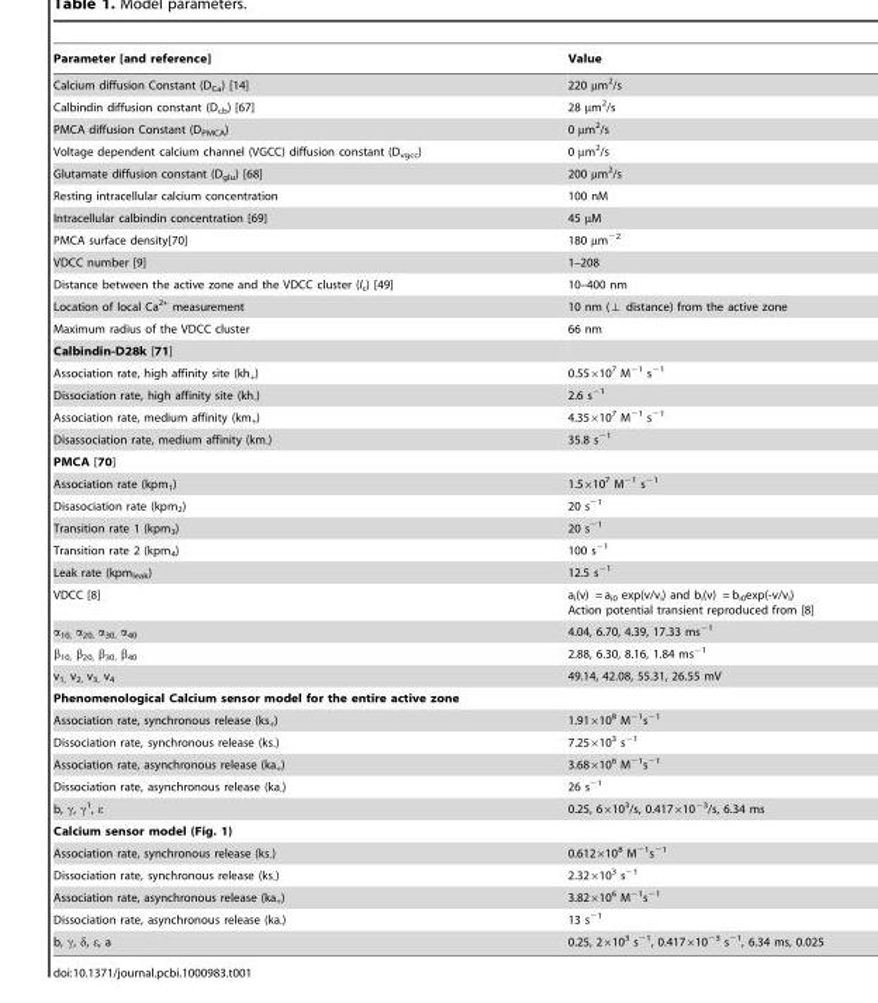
<table><thead><tr><td>Parameter [and reference]</td><td>Value</td></tr></thead><tbody><tr><td>Calcium diffusion Constant (D<sub>Ca</sub>) [14]</td><td>220 µm<sup>2</sup>/s</td></tr><tr><td>Calbindin diffusion constant (D<sub>cb</sub>) [67]</td><td>28 µm<sup>2</sup>/s</td></tr><tr><td>PMCA diffusion Constant (D<sub>PMCA</sub>)</td><td>0 µm<sup>2</sup>/s</td></tr><tr><td>Voltage dependent calcium channel (VGCC) diffusion constant (D<sub>vgcc</sub>)</td><td>0 µm<sup>2</sup>/s</td></tr><tr><td>Glutamate diffusion constant (D<sub>glu</sub>) [68]</td><td>200 µm<sup>2</sup>/s</td></tr><tr><td>Resting intracellular calcium concentration</td><td>100 nM</td></tr><tr><td>Intracellular calbindin concentration [69]</td><td>45 µM</td></tr><tr><td>PMCA surface density[70]</td><td>180 µm<sup>−2</sup></td></tr><tr><td>VDCC number [9]</td><td>1–208</td></tr><tr><td>Distance between the active zone and the VDCC cluster (l<sub>c</sub>) [49]</td><td>10–400 nm</td></tr><tr><td>Location of local Ca<sup>2+</sup> measurement</td><td>10 nm (⊥ distance) from the active zone</td></tr><tr><td>Maximum radius of the VDCC cluster</td><td>66 nm</td></tr><tr><td colspan="2">Calbindin-D28k [71]</td></tr><tr><td>Association rate, high affinity site (kh<sub>+</sub>)</td><td>0.55×10<sup>7</sup> M<sup>−1</sup> s<sup>−1</sup></td></tr><tr><td>Dissociation rate, high affinity site (kh<sub>-</sub>)</td><td>2.6 s<sup>−1</sup></td></tr><tr><td>Association rate, medium affinity (km<sub>+</sub>)</td><td>4.35×10<sup>7</sup> M<sup>−1</sup> s<sup>−1</sup></td></tr><tr><td>Disassociation rate, medium affinity (km<sub>-</sub>)</td><td>35.8 s<sup>−1</sup></td></tr><tr><td colspan="2">PMCA [70]</td></tr><tr><td>Association rate (kpm<sub>1</sub>)</td><td>1.5×10<sup>7</sup> M<sup>−1</sup> s<sup>−1</sup></td></tr><tr><td>Disasociation rate (kpm<sub>2</sub>)</td><td>20 s<sup>−1</sup></td></tr><tr><td>Transition rate 1 (kpm<sub>3</sub>)</td><td>20 s<sup>−1</sup></td></tr><tr><td>Transition rate 2 (kpm<sub>4</sub>)</td><td>100 s<sup>−1</sup></td></tr><tr><td>Leak rate (kpm<sub>leak</sub>)</td><td>12.5 s<sup>−1</sup></td></tr><tr><td>VDCC [8]</td><td>a<sub>i</sub>(v) = a<sub>i0</sub> exp(v/v<sub>i</sub>) and b<sub>i</sub>(v) = b<sub>i0</sub>exp(-v/v<sub>i</sub>) Action potential transient reproduced from [8]</td></tr><tr><td>α<sub>10,</sub> α<sub>20,</sub> α<sub>30,</sub> α<sub>40</sub></td><td>4.04, 6.70, 4.39, 17.33 ms<sup>−1</sup></td></tr><tr><td>β<sub>10,</sub> β<sub>20,</sub> β<sub>30,</sub> β<sub>40</sub></td><td>2.88, 6.30, 8.16, 1.84 ms<sup>−1</sup></td></tr><tr><td>v<sub>1,</sub> v<sub>2,</sub> v<sub>3,</sub> v<sub>4</sub></td><td>49.14, 42.08, 55.31, 26.55 mV</td></tr><tr><td colspan="2">Phenomenological Calcium sensor model for the entire active zone</td></tr><tr><td>Association rate, synchronous release (ks<sub>+</sub>)</td><td>1.91×10<sup>8</sup> M<sup>−1</sup>s<sup>−1</sup></td></tr><tr><td>Dissociation rate, synchronous release (ks<sub>-</sub>)</td><td>7.25×10<sup>3</sup> s<sup>−1</sup></td></tr><tr><td>Association rate, asynchronous release (ka<sub>+</sub>)</td><td>3.68×10<sup>6</sup> M<sup>−1</sup>s<sup>−1</sup></td></tr><tr><td>Dissociation rate, asynchronous release (ka<sub>-</sub>)</td><td>26 s<sup>−1</sup></td></tr><tr><td>b, γ, γ<sup>1</sup>, ε</td><td>0.25, 6×10<sup>3</sup>/s, 0.417×10<sup>−3</sup>/s, 6.34 ms</td></tr><tr><td colspan="2">Calcium sensor model (Fig. 1)</td></tr><tr><td>Association rate, synchronous release (ks<sub>-</sub>)</td><td>0.612×10<sup>8</sup> M<sup>−1</sup>s<sup>−1</sup></td></tr><tr><td>Dissociation rate, synchronous release (ks<sub>-</sub>)</td><td>2.32×10<sup>3</sup> s<sup>−1</sup></td></tr><tr><td>Association rate, asynchronous release (ka<sub>+</sub>)</td><td>3.82×10<sup>6</sup> M<sup>−1</sup>s<sup>−1</sup></td></tr><tr><td>Dissociation rate, asynchronous release (ka<sub>-</sub>)</td><td>13 s<sup>−1</sup></td></tr><tr><td>b, γ, δ, ε, a</td><td>0.25, 2×10<sup>3</sup> s<sup>−1</sup>, 0.417×10<sup>−3</sup> s<sup>−1</sup>, 6.34 ms, 0.025</td></tr></tbody></table>